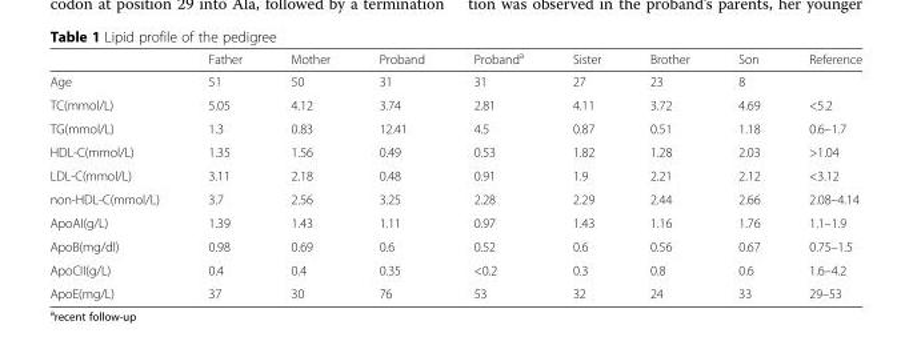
<table><thead><tr><td></td><td>Father</td><td>Mother</td><td>Proband</td><td>Proband<sup>a</sup></td><td>Sister</td><td>Brother</td><td>Son</td><td>Reference</td></tr></thead><tbody><tr><td>Age</td><td>51</td><td>50</td><td>31</td><td>31</td><td>27</td><td>23</td><td>8</td><td></td></tr><tr><td>TC(mmol/L)</td><td>5.05</td><td>4.12</td><td>3.74</td><td>2.81</td><td>4.11</td><td>3.72</td><td>4.69</td><td>&lt;5.2</td></tr><tr><td>TG(mmol/L)</td><td>1.3</td><td>0.83</td><td>12.41</td><td>4.5</td><td>0.87</td><td>0.51</td><td>1.18</td><td>0.6–1.7</td></tr><tr><td>HDL-C(mmol/L)</td><td>1.35</td><td>1.56</td><td>0.49</td><td>0.53</td><td>1.82</td><td>1.28</td><td>2.03</td><td>&gt;1.04</td></tr><tr><td>LDL-C(mmol/L)</td><td>3.11</td><td>2.18</td><td>0.48</td><td>0.91</td><td>1.9</td><td>2.21</td><td>2.12</td><td>&lt;3.12</td></tr><tr><td>non-HDL-C(mmol/L)</td><td>3.7</td><td>2.56</td><td>3.25</td><td>2.28</td><td>2.29</td><td>2.44</td><td>2.66</td><td>2.08–4.14</td></tr><tr><td>ApoAI(g/L)</td><td>1.39</td><td>1.43</td><td>1.11</td><td>0.97</td><td>1.43</td><td>1.16</td><td>1.76</td><td>1.1–1.9</td></tr><tr><td>ApoB(mg/dl)</td><td>0.98</td><td>0.69</td><td>0.6</td><td>0.52</td><td>0.6</td><td>0.56</td><td>0.67</td><td>0.75–1.5</td></tr><tr><td>ApoCII(g/L)</td><td>0.4</td><td>0.4</td><td>0.35</td><td>&lt;0.2</td><td>0.3</td><td>0.8</td><td>0.6</td><td>1.6–4.2</td></tr><tr><td>ApoE(mg/L)</td><td>37</td><td>30</td><td>76</td><td>53</td><td>32</td><td>24</td><td>33</td><td>29–53</td></tr></tbody></table>